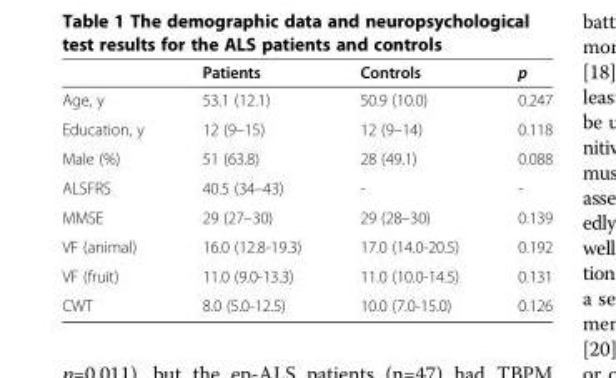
<table><thead><tr><td></td><td>Patients</td><td>Controls</td><td>p</td></tr></thead><tbody><tr><td>Age, y</td><td>53.1 (12.1)</td><td>50.9 (10.0)</td><td>0.247</td></tr><tr><td>Education, y</td><td>12 (9–15)</td><td>12 (9–14)</td><td>0.118</td></tr><tr><td>Male (%)</td><td>51 (63.8)</td><td>28 (49.1)</td><td>0.088</td></tr><tr><td>ALSFRS</td><td>40.5 (34–43)</td><td>-</td><td>-</td></tr><tr><td>MMSE</td><td>29 (27–30)</td><td>29 (28–30)</td><td>0.139</td></tr><tr><td>VF (animal)</td><td>16.0 (12.8-19.3)</td><td>17.0 (14.0-20.5)</td><td>0.192</td></tr><tr><td>VF (fruit)</td><td>11.0 (9.0-13.3)</td><td>11.0 (10.0-14.5)</td><td>0.131</td></tr><tr><td>CWT</td><td>8.0 (5.0-12.5)</td><td>10.0 (7.0-15.0)</td><td>0.126</td></tr></tbody></table>